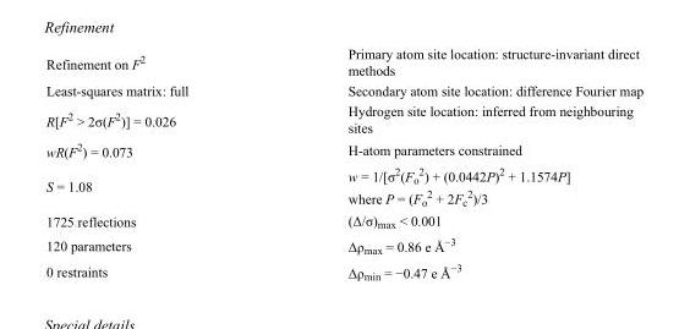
<table><tbody><tr><td>Refinement on F<sup>2</sup></td><td>Primary atom site location: structure-invariant direct methods</td></tr><tr><td>Least-squares matrix: full</td><td>Secondary atom site location: difference Fourier map</td></tr><tr><td>R[F<sup>2</sup> &gt; 2σ(F<sup>2</sup>)] = 0.026</td><td>Hydrogen site location: inferred from neighbouring sites</td></tr><tr><td>wR(F<sup>2</sup>) = 0.073</td><td>H-atom parameters constrained</td></tr><tr><td>S = 1.08</td><td>w = 1/[σ<sup>2</sup>(F<sub>o</sub> <sup>2</sup>) + (0.0442P)<sup>2</sup> + 1.1574P] where P = (F<sub>o</sub> <sup>2</sup> + 2F<sub>c</sub> <sup>2</sup>)/3</td></tr><tr><td>1725 reflections</td><td>(Δ/σ)<sub>max</sub> &lt; 0.001</td></tr><tr><td>120 parameters</td><td>Δρ<sub>max</sub> = 0.86 e Å<sup>−3</sup></td></tr><tr><td>0 restraints</td><td>Δρ<sub>min</sub> = −0.47 e Å<sup>−3</sup></td></tr></tbody></table>